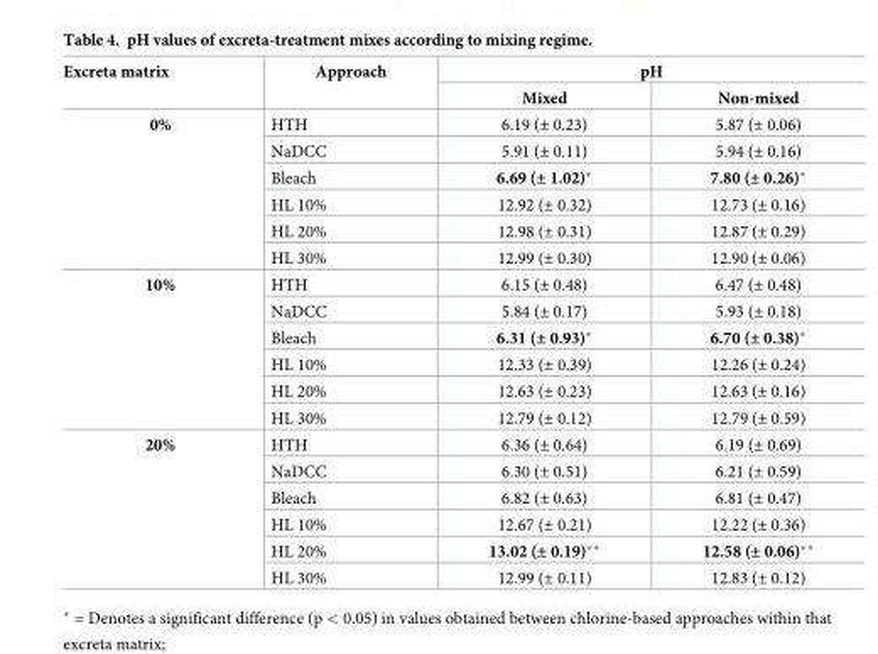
<table><thead><tr><td rowspan="2">Excreta matrix</td><td rowspan="2">Approach</td><td colspan="2">pH</td></tr><tr><td>Mixed</td><td>Non-mixed</td></tr></thead><tbody><tr><td rowspan="6">0%</td><td>HTH</td><td>6.19 (± 0.23)</td><td>5.87 (± 0.06)</td></tr><tr><td>NaDCC</td><td>5.91 (± 0.11)</td><td>5.94 (± 0.16)</td></tr><tr><td>Bleach</td><td>6.69 (± 1.02)*</td><td>7.80 (± 0.26)*</td></tr><tr><td>HL 10%</td><td>12.92 (± 0.32)</td><td>12.73 (± 0.16)</td></tr><tr><td>HL 20%</td><td>12.98 (± 0.31)</td><td>12.87 (± 0.29)</td></tr><tr><td>HL 30%</td><td>12.99 (± 0.30)</td><td>12.90 (± 0.06)</td></tr><tr><td rowspan="6">10%</td><td>HTH</td><td>6.15 (± 0.48)</td><td>6.47 (± 0.48)</td></tr><tr><td>NaDCC</td><td>5.84 (± 0.17)</td><td>5.93 (± 0.18)</td></tr><tr><td>Bleach</td><td>6.31 (± 0.93)*</td><td>6.70 (± 0.38)*</td></tr><tr><td>HL 10%</td><td>12.33 (± 0.39)</td><td>12.26 (± 0.24)</td></tr><tr><td>HL 20%</td><td>12.63 (± 0.23)</td><td>12.63 (± 0.16)</td></tr><tr><td>HL 30%</td><td>12.79 (± 0.12)</td><td>12.79 (± 0.59)</td></tr><tr><td rowspan="6">20%</td><td>HTH</td><td>6.36 (± 0.64)</td><td>6.19 (± 0.69)</td></tr><tr><td>NaDCC</td><td>6.30 (± 0.51)</td><td>6.21 (± 0.59)</td></tr><tr><td>Bleach</td><td>6.82 (± 0.63)</td><td>6.81 (± 0.47)</td></tr><tr><td>HL 10%</td><td>12.67 (± 0.21)</td><td>12.22 (± 0.36)</td></tr><tr><td>HL 20%</td><td>13.02 (± 0.19)**</td><td>12.58 (± 0.06)**</td></tr><tr><td>HL 30%</td><td>12.99 (± 0.11)</td><td>12.83 (± 0.12)</td></tr></tbody></table>